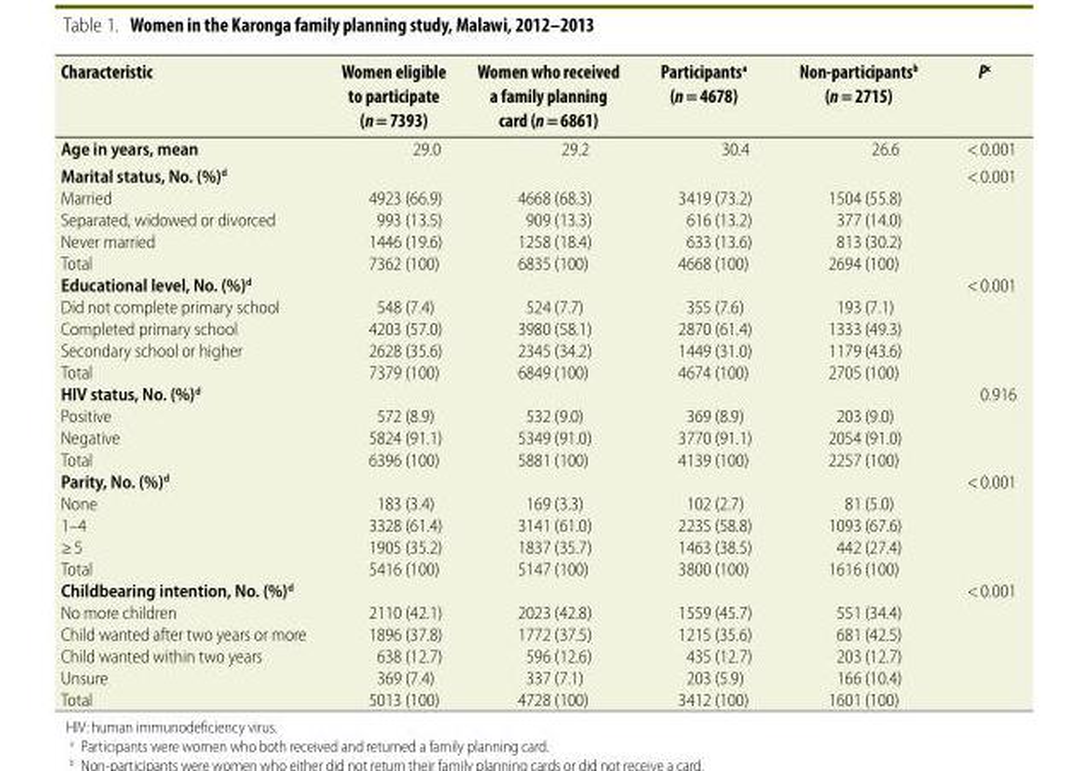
<table><thead><tr><td>Characteristic</td><td>Women eligible to participate (n = 7393)</td><td>Women who received a family planning card (n = 6861)</td><td>Participants<sup>a</sup> (n = 4678)</td><td>Non-participants<sup>b</sup> (n = 2715)</td><td>P<sup>c</sup></td></tr></thead><tbody><tr><td>Age in years, mean</td><td>29.0</td><td>29.2</td><td>30.4</td><td>26.6</td><td>&lt; 0.001</td></tr><tr><td>Marital status, No. (%)<sup>d</sup></td><td></td><td></td><td></td><td></td><td>&lt; 0.001</td></tr><tr><td>Married</td><td>4923 (66.9)</td><td>4668 (68.3)</td><td>3419 (73.2)</td><td>1504 (55.8)</td><td></td></tr><tr><td>Separated, widowed or divorced</td><td>993 (13.5)</td><td>909 (13.3)</td><td>616 (13.2)</td><td>377 (14.0)</td><td></td></tr><tr><td>Never married</td><td>1446 (19.6)</td><td>1258 (18.4)</td><td>633 (13.6)</td><td>813 (30.2)</td><td></td></tr><tr><td>Total</td><td>7362 (100)</td><td>6835 (100)</td><td>4668 (100)</td><td>2694 (100)</td><td></td></tr><tr><td>Educational level, No. (%)<sup>d</sup></td><td></td><td></td><td></td><td></td><td>&lt; 0.001</td></tr><tr><td>Did not complete primary school</td><td>548 (7.4)</td><td>524 (7.7)</td><td>355 (7.6)</td><td>193 (7.1)</td><td></td></tr><tr><td>Completed primary school</td><td>4203 (57.0)</td><td>3980 (58.1)</td><td>2870 (61.4)</td><td>1333 (49.3)</td><td></td></tr><tr><td>Secondary school or higher</td><td>2628 (35.6)</td><td>2345 (34.2)</td><td>1449 (31.0)</td><td>1179 (43.6)</td><td></td></tr><tr><td>Total</td><td>7379 (100)</td><td>6849 (100)</td><td>4674 (100)</td><td>2705 (100)</td><td></td></tr><tr><td>HIV status, No. (%)<sup>d</sup></td><td></td><td></td><td></td><td></td><td>0.916</td></tr><tr><td>Positive</td><td>572 (8.9)</td><td>532 (9.0)</td><td>369 (8.9)</td><td>203 (9.0)</td><td></td></tr><tr><td>Negative</td><td>5824 (91.1)</td><td>5349 (91.0)</td><td>3770 (91.1)</td><td>2054 (91.0)</td><td></td></tr><tr><td>Total</td><td>6396 (100)</td><td>5881 (100)</td><td>4139 (100)</td><td>2257 (100)</td><td></td></tr><tr><td>Parity, No. (%)<sup>d</sup></td><td></td><td></td><td></td><td></td><td>&lt; 0.001</td></tr><tr><td>None</td><td>183 (3.4)</td><td>169 (3.3)</td><td>102 (2.7)</td><td>81 (5.0)</td><td></td></tr><tr><td>1–4</td><td>3328 (61.4)</td><td>3141 (61.0)</td><td>2235 (58.8)</td><td>1093 (67.6)</td><td></td></tr><tr><td>≥ 5</td><td>1905 (35.2)</td><td>1837 (35.7)</td><td>1463 (38.5)</td><td>442 (27.4)</td><td></td></tr><tr><td>Total</td><td>5416 (100)</td><td>5147 (100)</td><td>3800 (100)</td><td>1616 (100)</td><td></td></tr><tr><td>Childbearing intention, No. (%)<sup>d</sup></td><td></td><td></td><td></td><td></td><td>&lt; 0.001</td></tr><tr><td>No more children</td><td>2110 (42.1)</td><td>2023 (42.8)</td><td>1559 (45.7)</td><td>551 (34.4)</td><td></td></tr><tr><td>Child wanted after two years or more</td><td>1896 (37.8)</td><td>1772 (37.5)</td><td>1215 (35.6)</td><td>681 (42.5)</td><td></td></tr><tr><td>Child wanted within two years</td><td>638 (12.7)</td><td>596 (12.6)</td><td>435 (12.7)</td><td>203 (12.7)</td><td></td></tr><tr><td>Unsure</td><td>369 (7.4)</td><td>337 (7.1)</td><td>203 (5.9)</td><td>166 (10.4)</td><td></td></tr><tr><td>Total</td><td>5013 (100)</td><td>4728 (100)</td><td>3412 (100)</td><td>1601 (100)</td><td></td></tr></tbody></table>